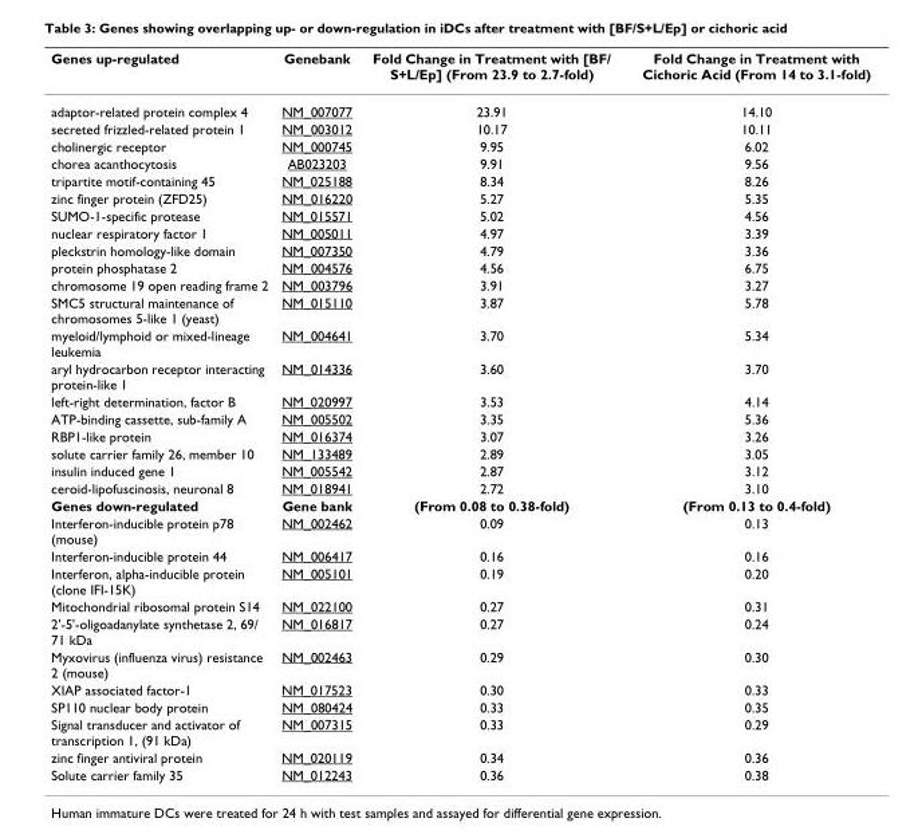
<table><thead><tr><td>Genes up-regulated</td><td>Genebank</td><td>Fold Change in Treatment with [BF/ S+L/Ep] (From 23.9 to 2.7-fold)</td><td>Fold Change in Treatment with Cichoric Acid (From 14 to 3.1-fold)</td></tr></thead><tbody><tr><td>adaptor-related protein complex 4</td><td>NM_007077</td><td>23.91</td><td>14.10</td></tr><tr><td>secreted frizzled-related protein 1</td><td>NM_003012</td><td>10.17</td><td>10.11</td></tr><tr><td>cholinergic receptor</td><td>NM_000745</td><td>9.95</td><td>6.02</td></tr><tr><td>chorea acanthocytosis</td><td>AB023203</td><td>9.91</td><td>9.56</td></tr><tr><td>tripartite motif-containing 45</td><td>NM_025188</td><td>8.34</td><td>8.26</td></tr><tr><td>zinc finger protein (ZFD25)</td><td>NM_016220</td><td>5.27</td><td>5.35</td></tr><tr><td>SUMO-1-specific protease</td><td>NM_015571</td><td>5.02</td><td>4.56</td></tr><tr><td>nuclear respiratory factor 1</td><td>NM_005011</td><td>4.97</td><td>3.39</td></tr><tr><td>pleckstrin homology-like domain</td><td>NM_007350</td><td>4.79</td><td>3.36</td></tr><tr><td>protein phosphatase 2</td><td>NM_004576</td><td>4.56</td><td>6.75</td></tr><tr><td>chromosome 19 open reading frame 2</td><td>NM_003796</td><td>3.91</td><td>3.27</td></tr><tr><td>SMC5 structural maintenance of chromosomes 5-like 1 (yeast)</td><td>NM_015110</td><td>3.87</td><td>5.78</td></tr><tr><td>myeloid/lymphoid or mixed-lineage leukemia</td><td>NM_004641</td><td>3.70</td><td>5.34</td></tr><tr><td>aryl hydrocarbon receptor interacting protein-like 1</td><td>NM_014336</td><td>3.60</td><td>3.70</td></tr><tr><td>left-right determination, factor B</td><td>NM_020997</td><td>3.53</td><td>4.14</td></tr><tr><td>ATP-binding cassette, sub-family A</td><td>NM_005502</td><td>3.35</td><td>5.36</td></tr><tr><td>RBP1-like protein</td><td>NM_016374</td><td>3.07</td><td>3.26</td></tr><tr><td>solute carrier family 26, member 10</td><td>NM_133489</td><td>2.89</td><td>3.05</td></tr><tr><td>insulin induced gene 1</td><td>NM_005542</td><td>2.87</td><td>3.12</td></tr><tr><td>ceroid-lipofuscinosis, neuronal 8</td><td>NM_018941</td><td>2.72</td><td>3.10</td></tr><tr><td>Genes down-regulated</td><td>Gene bank</td><td>(From 0.08 to 0.38-fold)</td><td>(From 0.13 to 0.4-fold)</td></tr><tr><td>Interferon-inducible protein p78 (mouse)</td><td>NM_002462</td><td>0.09</td><td>0.13</td></tr><tr><td>Interferon-inducible protein 44</td><td>NM_006417</td><td>0.16</td><td>0.16</td></tr><tr><td>Interferon, alpha-inducible protein (clone IFI-15K)</td><td>NM_005101</td><td>0.19</td><td>0.20</td></tr><tr><td>Mitochondrial ribosomal protein S14</td><td>NM_022100</td><td>0.27</td><td>0.31</td></tr><tr><td>2&#x27;-5&#x27;-oligoadanylate synthetase 2, 69/ 71 kDa</td><td>NM_016817</td><td>0.27</td><td>0.24</td></tr><tr><td>Myxovirus (influenza virus) resistance 2 (mouse)</td><td>NM_002463</td><td>0.29</td><td>0.30</td></tr><tr><td>XIAP associated factor-1</td><td>NM_017523</td><td>0.30</td><td>0.33</td></tr><tr><td>SP110 nuclear body protein</td><td>NM_080424</td><td>0.33</td><td>0.35</td></tr><tr><td>Signal transducer and activator of transcription 1, (91 kDa)</td><td>NM_007315</td><td>0.33</td><td>0.29</td></tr><tr><td>zinc finger antiviral protein</td><td>NM_020119</td><td>0.34</td><td>0.36</td></tr><tr><td>Solute carrier family 35</td><td>NM_012243</td><td>0.36</td><td>0.38</td></tr></tbody></table>